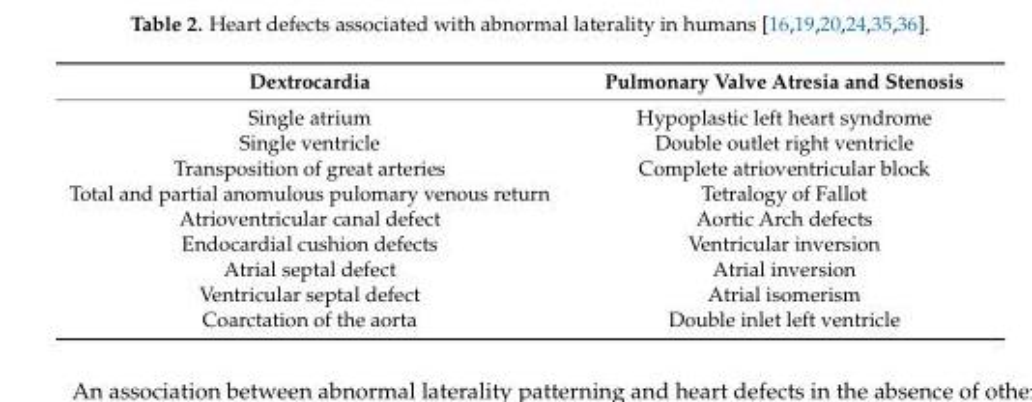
<table><thead><tr><td>Dextrocardia</td><td>Pulmonary Valve Atresia and Stenosis</td></tr></thead><tbody><tr><td>Single atrium</td><td>Hypoplastic left heart syndrome</td></tr><tr><td>Single ventricle</td><td>Double outlet right ventricle</td></tr><tr><td>Transposition of great arteries</td><td>Complete atrioventricular block</td></tr><tr><td>Total and partial anomulous pulomary venous return</td><td>Tetralogy of Fallot</td></tr><tr><td>Atrioventricular canal defect</td><td>Aortic Arch defects</td></tr><tr><td>Endocardial cushion defects</td><td>Ventricular inversion</td></tr><tr><td>Atrial septal defect</td><td>Atrial inversion</td></tr><tr><td>Ventricular septal defect</td><td>Atrial isomerism</td></tr><tr><td>Coarctation of the aorta</td><td>Double inlet left ventricle</td></tr></tbody></table>